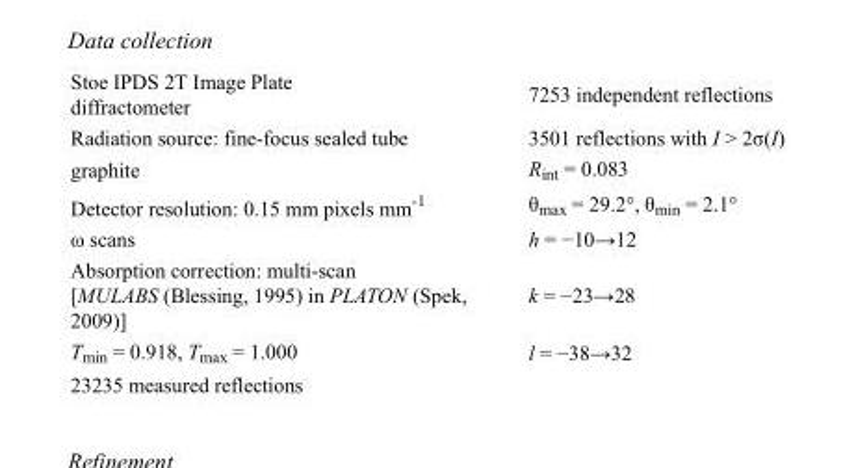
<table><tbody><tr><td>Stoe IPDS 2T Image Plate diffractometer</td><td>7253 independent reflections</td></tr><tr><td>Radiation source: fine-focus sealed tube</td><td>3501 reflections with I &gt; 2σ(I)</td></tr><tr><td>graphite</td><td>R<sub>int</sub> = 0.083</td></tr><tr><td>Detector resolution: 0.15 mm pixels mm<sup>-1</sup></td><td>θ<sub>max</sub> = 29.2°, θ<sub>min</sub> = 2.1°</td></tr><tr><td>ω scans</td><td>h = −10→12</td></tr><tr><td>Absorption correction: multi-scan [MULABS (Blessing, 1995) in PLATON (Spek, 2009)]</td><td>k = −23→28</td></tr><tr><td>T<sub>min</sub> = 0.918, T<sub>max</sub> = 1.000</td><td>l = −38→32</td></tr><tr><td>23235 measured reflections</td><td></td></tr></tbody></table>